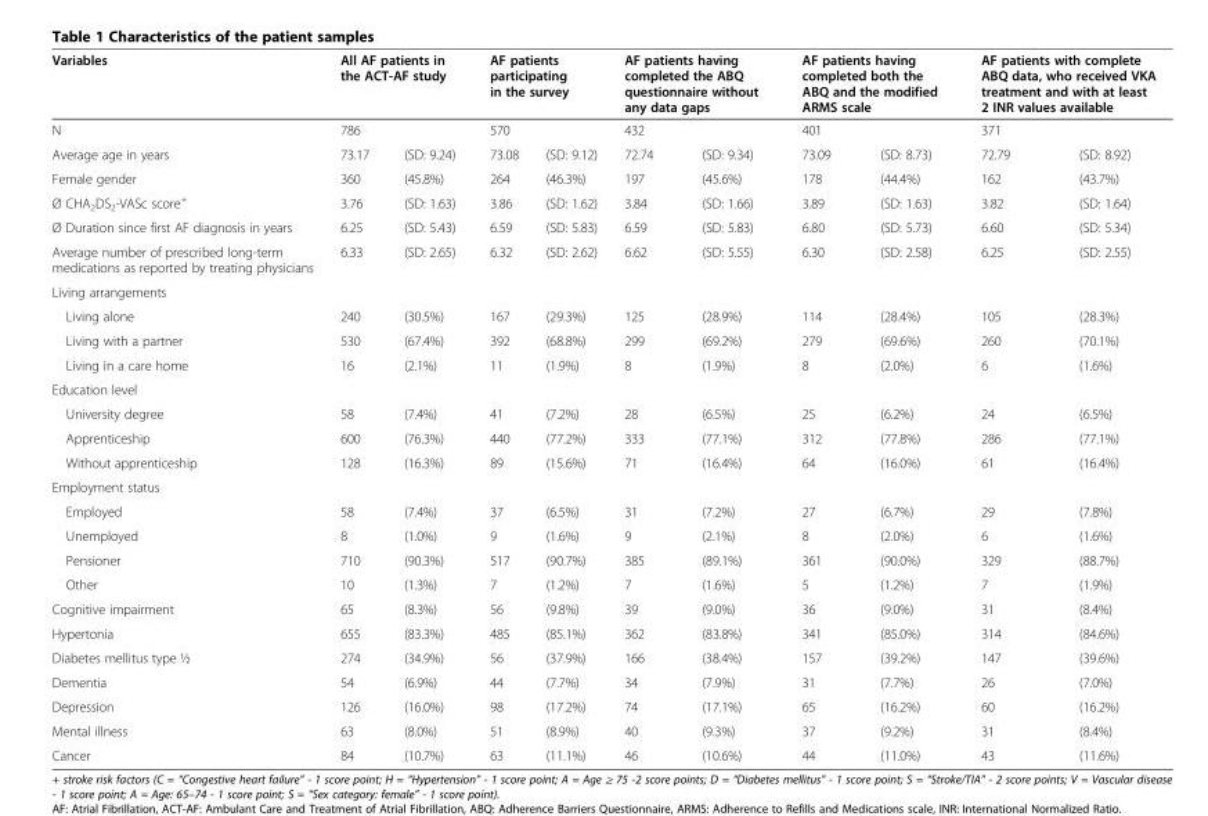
<table><thead><tr><td rowspan="3">Variables N Average age in years</td><td rowspan="2" colspan="2">All AF patients in the ACT-AF study 786</td><td rowspan="2" colspan="2">AF patients participating in the survey 570</td><td rowspan="2" colspan="2">AF patients having completed the ABQ questionnaire without any data gaps 432</td><td rowspan="2" colspan="2">AF patients having completed both the ABQ and the modified ARMS scale 401</td><td rowspan="2" colspan="2">AF patients with complete ABQ data, who received VKA treatment and with at least 2 INR values available 371</td></tr><tr></tr><tr><td>73.17</td><td>(SD: 9.24)</td><td>73.08</td><td>(SD: 9.12)</td><td>72.74</td><td>(SD: 9.34)</td><td>73.09</td><td>(SD: 8.73)</td><td>72.79</td><td>(SD: 8.92)</td></tr></thead><tbody><tr><td>Female gender</td><td>360</td><td>(45.8%)</td><td>264</td><td>(46.3%)</td><td>197</td><td>(45.6%)</td><td>178</td><td>(44.4%)</td><td>162</td><td>(43.7%)</td></tr><tr><td>Ø CHA<sub>2</sub>DS<sub>2</sub>-VASc score<sup>+</sup></td><td>3.76</td><td>(SD: 1.63)</td><td>3.86</td><td>(SD: 1.62)</td><td>3.84</td><td>(SD: 1.66)</td><td>3.89</td><td>(SD: 1.63)</td><td>3.82</td><td>(SD: 1.64)</td></tr><tr><td>Ø Duration since first AF diagnosis in years</td><td>6.25</td><td>(SD: 5.43)</td><td>6.59</td><td>(SD: 5.83)</td><td>6.59</td><td>(SD: 5.83)</td><td>6.80</td><td>(SD: 5.73)</td><td>6.60</td><td>(SD: 5.34)</td></tr><tr><td>Average number of prescribed long-term medications as reported by treating physicians</td><td>6.33</td><td>(SD: 2.65)</td><td>6.32</td><td>(SD: 2.62)</td><td>6.62</td><td>(SD: 5.55)</td><td>6.30</td><td>(SD: 2.58)</td><td>6.25</td><td>(SD: 2.55)</td></tr><tr><td colspan="11">Living arrangements</td></tr><tr><td>Living alone</td><td>240</td><td>(30.5%)</td><td>167</td><td>(29.3%)</td><td>125</td><td>(28.9%)</td><td>114</td><td>(28.4%)</td><td>105</td><td>(28.3%)</td></tr><tr><td>Living with a partner</td><td>530</td><td>(67.4%)</td><td>392</td><td>(68.8%)</td><td>299</td><td>(69.2%)</td><td>279</td><td>(69.6%)</td><td>260</td><td>(70.1%)</td></tr><tr><td>Living in a care home</td><td>16</td><td>(2.1%)</td><td>11</td><td>(1.9%)</td><td>8</td><td>(1.9%)</td><td>8</td><td>(2.0%)</td><td>6</td><td>(1.6%)</td></tr><tr><td colspan="11">Education level</td></tr><tr><td>University degree</td><td>58</td><td>(7.4%)</td><td>41</td><td>(7.2%)</td><td>28</td><td>(6.5%)</td><td>25</td><td>(6.2%)</td><td>24</td><td>(6.5%)</td></tr><tr><td>Apprenticeship</td><td>600</td><td>(76.3%)</td><td>440</td><td>(77.2%)</td><td>333</td><td>(77.1%)</td><td>312</td><td>(77.8%)</td><td>286</td><td>(77.1%)</td></tr><tr><td>Without apprenticeship</td><td>128</td><td>(16.3%)</td><td>89</td><td>(15.6%)</td><td>71</td><td>(16.4%)</td><td>64</td><td>(16.0%)</td><td>61</td><td>(16.4%)</td></tr><tr><td colspan="11">Employment status</td></tr><tr><td>Employed</td><td>58</td><td>(7.4%)</td><td>37</td><td>(6.5%)</td><td>31</td><td>(7.2%)</td><td>27</td><td>(6.7%)</td><td>29</td><td>(7.8%)</td></tr><tr><td>Unemployed</td><td>8</td><td>(1.0%)</td><td>9</td><td>(1.6%)</td><td>9</td><td>(2.1%)</td><td>8</td><td>(2.0%)</td><td>6</td><td>(1.6%)</td></tr><tr><td>Pensioner</td><td>710</td><td>(90.3%)</td><td>517</td><td>(90.7%)</td><td>385</td><td>(89.1%)</td><td>361</td><td>(90.0%)</td><td>329</td><td>(88.7%)</td></tr><tr><td>Other</td><td>10</td><td>(1.3%)</td><td>7</td><td>(1.2%)</td><td>7</td><td>(1.6%)</td><td>5</td><td>(1.2%)</td><td>7</td><td>(1.9%)</td></tr><tr><td>Cognitive impairment</td><td>65</td><td>(8.3%)</td><td>56</td><td>(9.8%)</td><td>39</td><td>(9.0%)</td><td>36</td><td>(9.0%)</td><td>31</td><td>(8.4%)</td></tr><tr><td>Hypertonia</td><td>655</td><td>(83.3%)</td><td>485</td><td>(85.1%)</td><td>362</td><td>(83.8%)</td><td>341</td><td>(85.0%)</td><td>314</td><td>(84.6%)</td></tr><tr><td>Diabetes mellitus type ½</td><td>274</td><td>(34.9%)</td><td>56</td><td>(37.9%)</td><td>166</td><td>(38.4%)</td><td>157</td><td>(39.2%)</td><td>147</td><td>(39.6%)</td></tr><tr><td>Dementia</td><td>54</td><td>(6.9%)</td><td>44</td><td>(7.7%)</td><td>34</td><td>(7.9%)</td><td>31</td><td>(7.7%)</td><td>26</td><td>(7.0%)</td></tr><tr><td>Depression</td><td>126</td><td>(16.0%)</td><td>98</td><td>(17.2%)</td><td>74</td><td>(17.1%)</td><td>65</td><td>(16.2%)</td><td>60</td><td>(16.2%)</td></tr><tr><td>Mental illness</td><td>63</td><td>(8.0%)</td><td>51</td><td>(8.9%)</td><td>40</td><td>(9.3%)</td><td>37</td><td>(9.2%)</td><td>31</td><td>(8.4%)</td></tr><tr><td>Cancer</td><td>84</td><td>(10.7%)</td><td>63</td><td>(11.1%)</td><td>46</td><td>(10.6%)</td><td>44</td><td>(11.0%)</td><td>43</td><td>(11.6%)</td></tr></tbody></table>